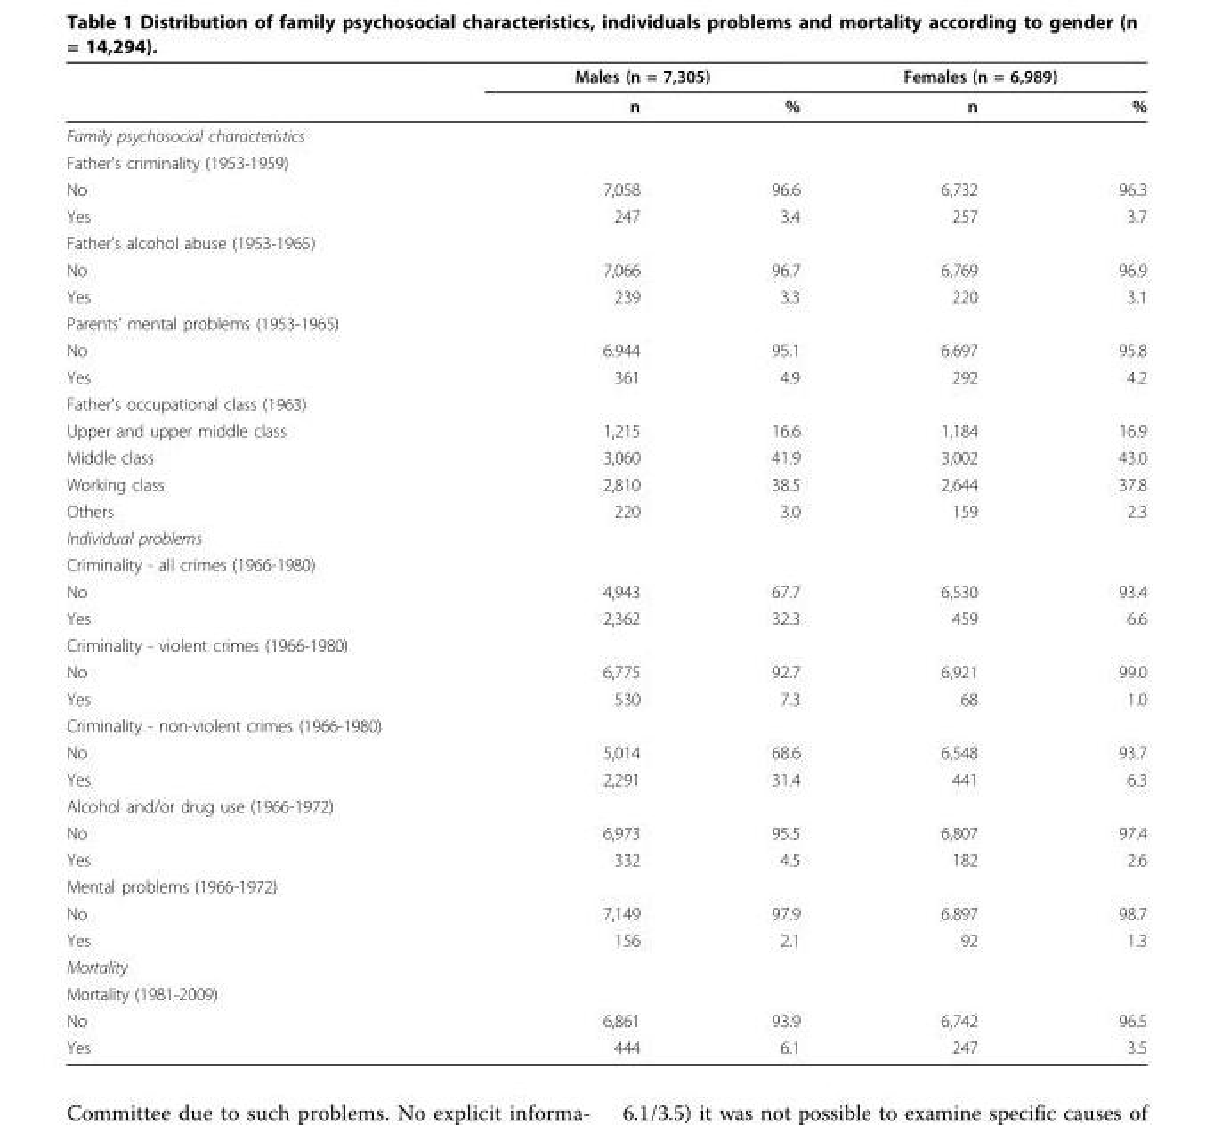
<table><thead><tr><td rowspan="2"></td><td colspan="2">Males (n = 7,305)</td><td colspan="2">Females (n = 6,989)</td></tr><tr><td>n</td><td>%</td><td>n</td><td>%</td></tr></thead><tbody><tr><td colspan="5">Family psychosocial characteristics</td></tr><tr><td colspan="5">Father’s criminality (1953-1959)</td></tr><tr><td>No</td><td>7,058</td><td>96.6</td><td>6,732</td><td>96.3</td></tr><tr><td>Yes</td><td>247</td><td>3.4</td><td>257</td><td>3.7</td></tr><tr><td colspan="5">Father’s alcohol abuse (1953-1965)</td></tr><tr><td>No</td><td>7,066</td><td>96.7</td><td>6,769</td><td>96.9</td></tr><tr><td>Yes</td><td>239</td><td>3.3</td><td>220</td><td>3.1</td></tr><tr><td colspan="5">Parents’ mental problems (1953-1965)</td></tr><tr><td>No</td><td>6.944</td><td>95.1</td><td>6.697</td><td>95.8</td></tr><tr><td>Yes</td><td>361</td><td>4.9</td><td>292</td><td>4.2</td></tr><tr><td colspan="5">Father’s occupational class (1963)</td></tr><tr><td>Upper and upper middle class</td><td>1,215</td><td>16.6</td><td>1,184</td><td>16.9</td></tr><tr><td>Middle class</td><td>3,060</td><td>41.9</td><td>3,002</td><td>43.0</td></tr><tr><td>Working class</td><td>2,810</td><td>38.5</td><td>2,644</td><td>37.8</td></tr><tr><td>Others</td><td>220</td><td>3.0</td><td>159</td><td>2.3</td></tr><tr><td colspan="5">Individual problems</td></tr><tr><td colspan="5">Criminality - all crimes (1966-1980)</td></tr><tr><td>No</td><td>4,943</td><td>67.7</td><td>6,530</td><td>93.4</td></tr><tr><td>Yes</td><td>2,362</td><td>32.3</td><td>459</td><td>6.6</td></tr><tr><td colspan="5">Criminality - violent crimes (1966-1980)</td></tr><tr><td>No</td><td>6,775</td><td>92.7</td><td>6,921</td><td>99.0</td></tr><tr><td>Yes</td><td>530</td><td>7.3</td><td>68</td><td>1.0</td></tr><tr><td colspan="5">Criminality - non-violent crimes (1966-1980)</td></tr><tr><td>No</td><td>5,014</td><td>68.6</td><td>6,548</td><td>93.7</td></tr><tr><td>Yes</td><td>2,291</td><td>31.4</td><td>441</td><td>6.3</td></tr><tr><td colspan="5">Alcohol and/or drug use (1966-1972)</td></tr><tr><td>No</td><td>6,973</td><td>95.5</td><td>6,807</td><td>97.4</td></tr><tr><td>Yes</td><td>332</td><td>4.5</td><td>182</td><td>2.6</td></tr><tr><td colspan="5">Mental problems (1966-1972)</td></tr><tr><td>No</td><td>7,149</td><td>97.9</td><td>6.897</td><td>98.7</td></tr><tr><td>Yes</td><td>156</td><td>2.1</td><td>92</td><td>1.3</td></tr><tr><td colspan="5">Mortality</td></tr><tr><td colspan="5">Mortality (1981-2009)</td></tr><tr><td>No</td><td>6,861</td><td>93.9</td><td>6,742</td><td>96.5</td></tr><tr><td>Yes</td><td>444</td><td>6.1</td><td>247</td><td>3.5</td></tr></tbody></table>